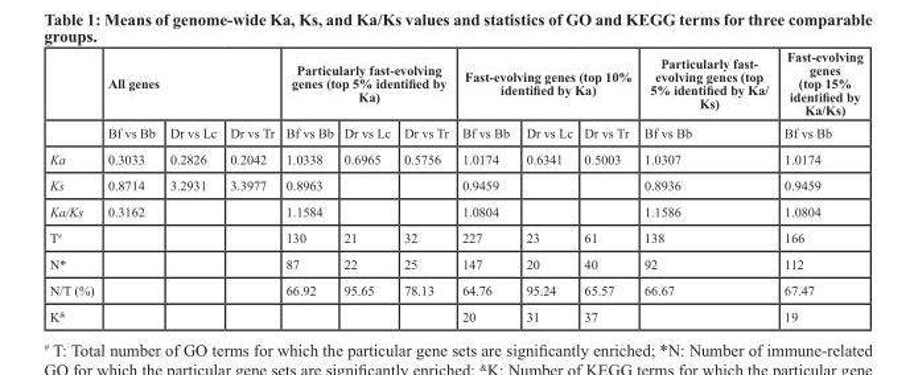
<table><thead><tr><td rowspan="2"></td><td colspan="3">All genes</td><td colspan="3">Particularly fast-evolving genes (top 5% identified by Ka)</td><td colspan="3">Fast-evolving genes (top 10% identified by Ka)</td><td rowspan="2">Particularly fast- evolving genes (top 5% identified by Ka/ Ks) Bf vs Bb</td><td rowspan="2">Fast-evolving genes (top 15% identified by Ka/Ks) Bf vs Bb</td></tr><tr><td>Bf vs Bb</td><td>Dr vs Lc</td><td>Dr vs Tr</td><td>Bf vs Bb</td><td>Dr vs Lc</td><td>Dr vs Tr</td><td>Bf vs Bb</td><td>Dr vs Lc</td><td>Dr vs Tr</td></tr></thead><tbody><tr><td>Ka</td><td>0.3033</td><td>0.2826</td><td>0.2042</td><td>1.0338</td><td>0.6965</td><td>0.5756</td><td>1.0174</td><td>0.6341</td><td>0.5003</td><td>1.0307</td><td>1.0174</td></tr><tr><td>Ks</td><td>0.8714</td><td>3.2931</td><td>3.3977</td><td>0.8963</td><td></td><td></td><td>0.9459</td><td></td><td></td><td>0.8936</td><td>0.9459</td></tr><tr><td>Ka/Ks</td><td>0.3162</td><td></td><td></td><td>1.1584</td><td></td><td></td><td>1.0804</td><td></td><td></td><td>1.1586</td><td>1.0804</td></tr><tr><td>T<sup>#</sup></td><td></td><td></td><td></td><td>130</td><td>21</td><td>32</td><td>227</td><td>23</td><td>61</td><td>138</td><td>166</td></tr><tr><td>N*</td><td></td><td></td><td></td><td>87</td><td>22</td><td>25</td><td>147</td><td>20</td><td>40</td><td>92</td><td>112</td></tr><tr><td>N/T (%)</td><td></td><td></td><td></td><td>66.92</td><td>95.65</td><td>78.13</td><td>64.76</td><td>95.24</td><td>65.57</td><td>66.67</td><td>67.47</td></tr><tr><td>K<sup>&amp;</sup></td><td></td><td></td><td></td><td></td><td></td><td></td><td>20</td><td>31</td><td>37</td><td></td><td>19</td></tr></tbody></table>